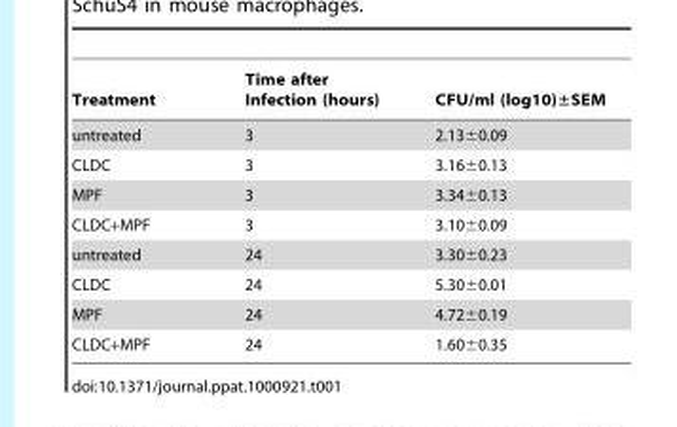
<table><thead><tr><td>Treatment</td><td>Time after Infection (hours)</td><td>CFU/ml (log10)±SEM</td></tr></thead><tbody><tr><td>untreated</td><td>3</td><td>2.13±0.09</td></tr><tr><td>CLDC</td><td>3</td><td>3.16±0.13</td></tr><tr><td>MPF</td><td>3</td><td>3.34±0.13</td></tr><tr><td>CLDC+MPF</td><td>3</td><td>3.10±0.09</td></tr><tr><td>untreated</td><td>24</td><td>3.30±0.23</td></tr><tr><td>CLDC</td><td>24</td><td>5.30±0.01</td></tr><tr><td>MPF</td><td>24</td><td>4.72±0.19</td></tr><tr><td>CLDC+MPF</td><td>24</td><td>1.60±0.35</td></tr></tbody></table>